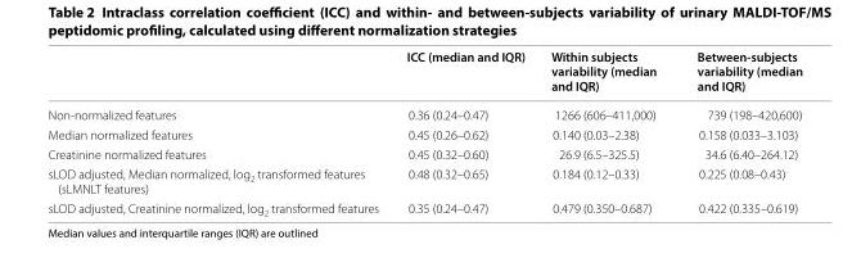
<table><thead><tr><td></td><td>ICC (median and IQR)</td><td>Within subjects variability (median and IQR)</td><td>Between‑subjects variability (median and IQR)</td></tr></thead><tbody><tr><td>Non‑normalized features</td><td>0.36 (0.24–0.47)</td><td>1266 (606–411,000)</td><td>739 (198–420,600)</td></tr><tr><td>Median normalized features</td><td>0.45 (0.26–0.62)</td><td>0.140 (0.03–2.38)</td><td>0.158 (0.033–3.103)</td></tr><tr><td>Creatinine normalized features</td><td>0.45 (0.32–0.60)</td><td>26.9 (6.5–325.5)</td><td>34.6 (6.40–264.12)</td></tr><tr><td>sLOD adjusted, Median normalized, log<sub>2</sub> transformed features (sLMNLT features)</td><td>0.48 (0.32–0.65)</td><td>0.184 (0.12–0.33)</td><td>0.225 (0.08–0.43)</td></tr><tr><td>sLOD adjusted, Creatinine normalized, log<sub>2</sub> transformed features</td><td>0.35 (0.24–0.47)</td><td>0.479 (0.350–0.687)</td><td>0.422 (0.335–0.619)</td></tr></tbody></table>